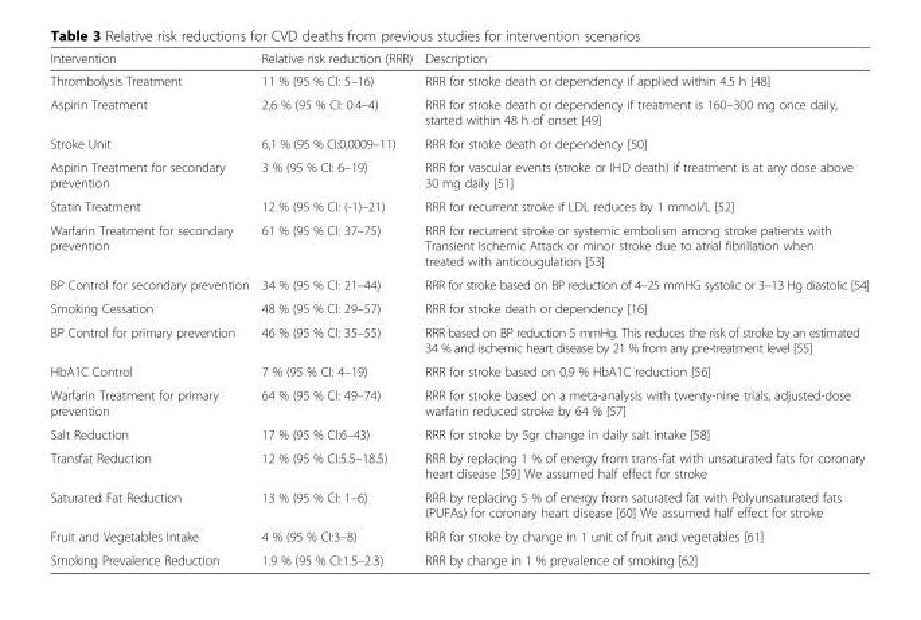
<table><thead><tr><td>Intervention</td><td>Relative risk reduction (RRR)</td><td>Description</td></tr></thead><tbody><tr><td>Thrombolysis Treatment</td><td>11 % (95 % CI: 5–16)</td><td>RRR for stroke death or dependency if applied within 4.5 h [48]</td></tr><tr><td>Aspirin Treatment</td><td>2,6 % (95 % CI: 0.4–4)</td><td>RRR for stroke death or dependency if treatment is 160–300 mg once daily, started within 48 h of onset [49]</td></tr><tr><td>Stroke Unit</td><td>6,1 % (95 % CI:0,0009–11)</td><td>RRR for stroke death or dependency [50]</td></tr><tr><td>Aspirin Treatment for secondary prevention</td><td>3 % (95 % CI: 6–19)</td><td>RRR for vascular events (stroke or IHD death) if treatment is at any dose above 30 mg daily [51]</td></tr><tr><td>Statin Treatment</td><td>12 % (95 % CI: (-1)–21)</td><td>RRR for recurrent stroke if LDL reduces by 1 mmol/L [52]</td></tr><tr><td>Warfarin Treatment for secondary prevention</td><td>61 % (95 % CI: 37–75)</td><td>RRR for recurrent stroke or systemic embolism among stroke patients with Transient Ischemic Attack or minor stroke due to atrial fibrillation when treated with anticougulation [53]</td></tr><tr><td>BP Control for secondary prevention</td><td>34 % (95 % CI: 21–44)</td><td>RRR for stroke based on BP reduction of 4–25 mmHG systolic or 3–13 Hg diastolic [54]</td></tr><tr><td>Smoking Cessation</td><td>48 % (95 % CI: 29–57)</td><td>RRR for stroke death or dependency [16]</td></tr><tr><td>BP Control for primary prevention</td><td>46 % (95 % CI: 35–55)</td><td>RRR based on BP reduction 5 mmHg. This reduces the risk of stroke by an estimated 34 % and ischemic heart disease by 21 % from any pre-treatment level [55]</td></tr><tr><td>HbA1C Control</td><td>7 % (95 % CI: 4–19)</td><td>RRR for stroke based on 0,9 % HbA1C reduction [56]</td></tr><tr><td>Warfarin Treatment for primary prevention</td><td>64 % (95 % CI: 49–74)</td><td>RRR for stroke based on a meta-analysis with twenty-nine trials, adjusted-dose warfarin reduced stroke by 64 % [57]</td></tr><tr><td>Salt Reduction</td><td>17 % (95 % CI:6–43)</td><td>RRR for stroke by 5gr change in daily salt intake [58]</td></tr><tr><td>Transfat Reduction</td><td>12 % (95 % CI:5.5–18.5)</td><td>RRR by replacing 1 % of energy from trans-fat with unsaturated fats for coronary heart disease [59] We assumed half effect for stroke</td></tr><tr><td>Saturated Fat Reduction</td><td>13 % (95 % CI: 1–6)</td><td>RRR by replacing 5 % of energy from saturated fat with Polyunsaturated fats (PUFAs) for coronary heart disease [60] We assumed half effect for stroke</td></tr><tr><td>Fruit and Vegetables Intake</td><td>4 % (95 % CI:3–8)</td><td>RRR for stroke by change in 1 unit of fruit and vegetables [61]</td></tr><tr><td>Smoking Prevalence Reduction</td><td>1.9 % (95 % CI:1.5–2.3)</td><td>RRR by change in 1 % prevalence of smoking [62]</td></tr></tbody></table>